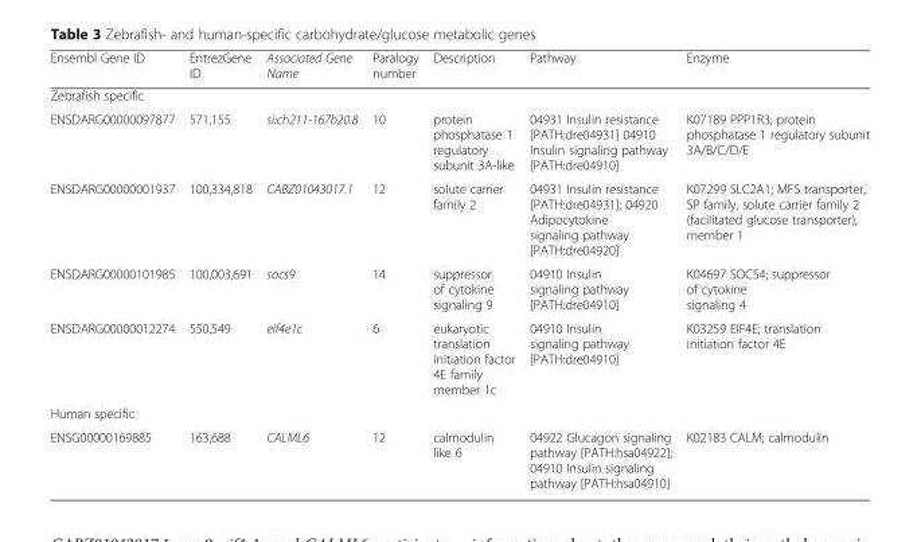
<table><thead><tr><td>Ensembl Gene ID</td><td>EntrezGene ID</td><td>Associated Gene Name</td><td>Paralogy number</td><td>Description</td><td>Pathway</td><td>Enzyme</td></tr></thead><tbody><tr><td colspan="7">Zebrafish specific</td></tr><tr><td>ENSDARG00000097877</td><td>571,155</td><td>si:ch211-167b20.8</td><td>10</td><td>protein phosphatase 1 regulatory subunit 3A-like</td><td>04931 Insulin resistance [PATH:dre04931] 04910 Insulin signaling pathway [PATH:dre04910]</td><td>K07189 PPP1R3; protein phosphatase 1 regulatory subunit 3A/B/C/D/E</td></tr><tr><td>ENSDARG00000001937</td><td>100,334,818</td><td>CABZ01043017.1</td><td>12</td><td>solute carrier family 2</td><td>04931 Insulin resistance [PATH:dre04931]; 04920 Adipocytokine signaling pathway [PATH:dre04920]</td><td>K07299 SLC2A1; MFS transporter, SP family, solute carrier family 2 (facilitated glucose transporter), member 1</td></tr><tr><td>ENSDARG00000101985</td><td>100,003,691</td><td>socs9</td><td>14</td><td>suppressor of cytokine signaling 9</td><td>04910 Insulin signaling pathway [PATH:dre04910]</td><td>K04697 SOCS4; suppressor of cytokine signaling 4</td></tr><tr><td>ENSDARG00000012274</td><td>550,549</td><td>eif4e1c</td><td>6</td><td>eukaryotic translation initiation factor 4E family member 1c</td><td>04910 Insulin signaling pathway [PATH:dre04910]</td><td>K03259 EIF4E; translation initiation factor 4E</td></tr><tr><td colspan="7">Human specific</td></tr><tr><td>ENSG00000169885</td><td>163,688</td><td>CALML6</td><td>12</td><td>calmodulin like 6</td><td>04922 Glucagon signaling pathway [PATH:hsa04922]; 04910 Insulin signaling pathway [PATH:hsa04910]</td><td>K02183 CALM; calmodulin</td></tr></tbody></table>